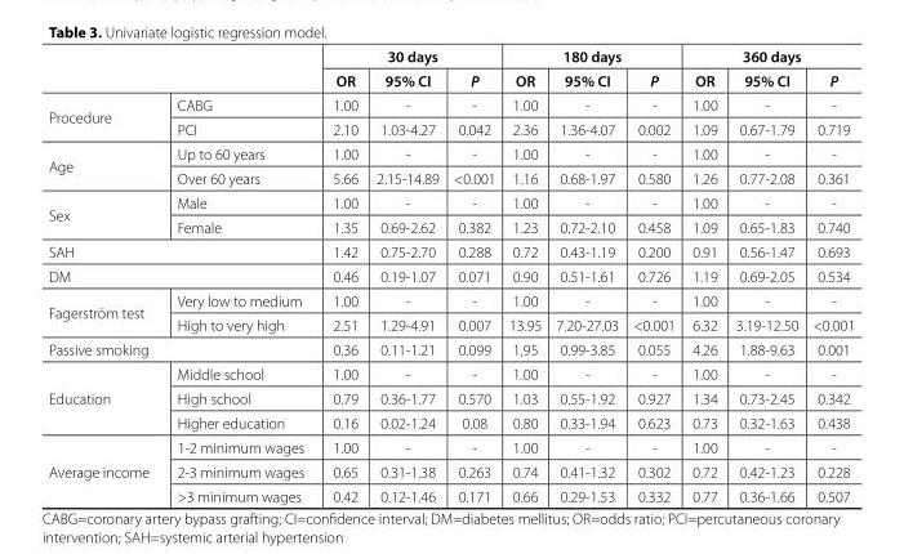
<table><thead><tr><td rowspan="2"></td><td rowspan="2"></td><td colspan="3">30 days</td><td colspan="3">180 days</td><td colspan="3">360 days</td></tr><tr><td>OR</td><td>95% CI</td><td>P</td><td>OR</td><td>95% CI</td><td>P</td><td>OR</td><td>95% CI</td><td>P</td></tr></thead><tbody><tr><td rowspan="2">Procedure</td><td>CABG</td><td>1.00</td><td>-</td><td>-</td><td>1.00</td><td>-</td><td>-</td><td>1.00</td><td>-</td><td>-</td></tr><tr><td>PCI</td><td>2.10</td><td>1.03-4.27</td><td>0.042</td><td>2.36</td><td>1.36-4.07</td><td>0.002</td><td>1.09</td><td>0.67-1.79</td><td>0.719</td></tr><tr><td rowspan="2">Age</td><td>Up to 60 years</td><td>1.00</td><td>-</td><td>-</td><td>1.00</td><td>-</td><td>-</td><td>1.00</td><td>-</td><td>-</td></tr><tr><td>Over 60 years</td><td>5.66</td><td>2.15-14.89</td><td>&lt;0.001</td><td>1.16</td><td>0.68-1.97</td><td>0.580</td><td>1.26</td><td>0.77-2.08</td><td>0.361</td></tr><tr><td rowspan="2">Sex</td><td>Male</td><td>1.00</td><td>-</td><td>-</td><td>1.00</td><td>-</td><td>-</td><td>1.00</td><td>-</td><td>-</td></tr><tr><td>Female</td><td>1.35</td><td>0.69-2.62</td><td>0.382</td><td>1.23</td><td>0.72-2.10</td><td>0.458</td><td>1.09</td><td>0.65-1.83</td><td>0.740</td></tr><tr><td colspan="2">SAH</td><td>1.42</td><td>0.75-2.70</td><td>0.288</td><td>0.72</td><td>0.43-1.19</td><td>0.200</td><td>0.91</td><td>0.56-1.47</td><td>0.693</td></tr><tr><td colspan="2">DM</td><td>0.46</td><td>0.19-1.07</td><td>0.071</td><td>0.90</td><td>0.51-1.61</td><td>0.726</td><td>1.19</td><td>0.69-2.05</td><td>0.534</td></tr><tr><td rowspan="2">Fagerström test</td><td>Very low to medium</td><td>1.00</td><td>-</td><td>-</td><td>1.00</td><td>-</td><td>-</td><td>1.00</td><td>-</td><td>-</td></tr><tr><td>High to very high</td><td>2.51</td><td>1.29-4.91</td><td>0.007</td><td>13.95</td><td>7.20-27.03</td><td>&lt;0.001</td><td>6.32</td><td>3.19-12.50</td><td>&lt;0.001</td></tr><tr><td colspan="2">Passive smoking</td><td>0.36</td><td>0.11-1.21</td><td>0.099</td><td>1,95</td><td>0.99-3.85</td><td>0.055</td><td>4.26</td><td>1.88-9.63</td><td>0.001</td></tr><tr><td rowspan="3">Education</td><td>Middle school</td><td>1.00</td><td>-</td><td>-</td><td>1.00</td><td>-</td><td>-</td><td>1.00</td><td>-</td><td>-</td></tr><tr><td>High school</td><td>0.79</td><td>0.36-1.77</td><td>0.570</td><td>1.03</td><td>0.55-1.92</td><td>0.927</td><td>1.34</td><td>0.73-2.45</td><td>0.342</td></tr><tr><td>Higher education</td><td>0.16</td><td>0.02-1.24</td><td>0.08</td><td>0.80</td><td>0.33-1.94</td><td>0.623</td><td>0.73</td><td>0.32-1.63</td><td>0.438</td></tr><tr><td rowspan="3">Average income</td><td>1-2 minimum wages</td><td>1.00</td><td>-</td><td>-</td><td>1.00</td><td>-</td><td>-</td><td>1.00</td><td>-</td><td>-</td></tr><tr><td>2-3 minimum wages</td><td>0.65</td><td>0.31-1.38</td><td>0.263</td><td>0.74</td><td>0.41-1.32</td><td>0.302</td><td>0.72</td><td>0.42-1.23</td><td>0.228</td></tr><tr><td>&gt;3 minimum wages</td><td>0.42</td><td>0.12-1.46</td><td>0.171</td><td>0.66</td><td>0.29-1.53</td><td>0.332</td><td>0.77</td><td>0.36-1.66</td><td>0.507</td></tr></tbody></table>